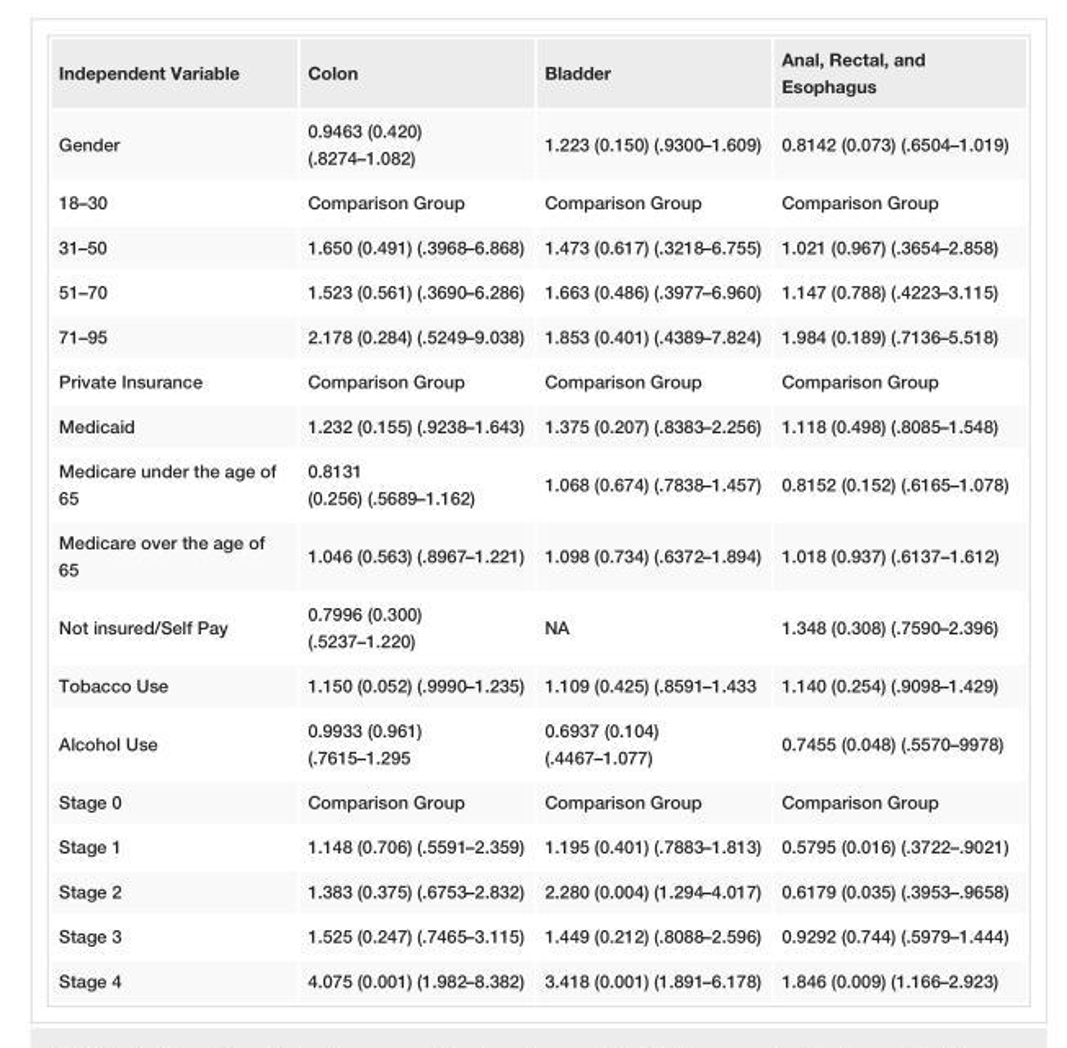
<table><tbody><tr><td>Independent Variable</td><td>Colon</td><td>Bladder</td><td>Anal, Rectal, and Esophagus</td></tr><tr><td>Gender</td><td>0.9463 (0.420) (.8274–1.082)</td><td>1.223 (0.150) (.9300–1.609)</td><td>0.8142 (0.073) (.6504–1.019)</td></tr><tr><td>18–30</td><td>Comparison Group</td><td>Comparison Group</td><td>Comparison Group</td></tr><tr><td>31–50</td><td>1.650 (0.491) (.3968–6.868)</td><td>1.473 (0.617) (.3218–6.755)</td><td>1.021 (0.967) (.3654–2.858)</td></tr><tr><td>51–70</td><td>1.523 (0.561) (.3690–6.286)</td><td>1.663 (0.486) (.3977–6.960)</td><td>1.147 (0.788) (.4223–3.115)</td></tr><tr><td>71–95</td><td>2.178 (0.284) (.5249–9.038)</td><td>1.853 (0.401) (.4389–7.824)</td><td>1.984 (0.189) (.7136–5.518)</td></tr><tr><td>Private Insurance</td><td>Comparison Group</td><td>Comparison Group</td><td>Comparison Group</td></tr><tr><td>Medicaid</td><td>1.232 (0.155) (.9238–1.643)</td><td>1.375 (0.207) (.8383–2.256)</td><td>1.118 (0.498) (.8085–1.548)</td></tr><tr><td>Medicare under the age of 65</td><td>0.8131 (0.256) (.5689–1.162)</td><td>1.068 (0.674) (.7838–1.457)</td><td>0.8152 (0.152) (.6165–1.078)</td></tr><tr><td>Medicare over the age of 65</td><td>1.046 (0.563) (.8967–1.221)</td><td>1.098 (0.734) (.6372–1.894)</td><td>1.018 (0.937) (.6137–1.612)</td></tr><tr><td>Not insured/Self Pay</td><td>0.7996 (0.300) (.5237–1.220)</td><td>NA</td><td>1.348 (0.308) (.7590–2.396)</td></tr><tr><td>Tobacco Use</td><td>1.150 (0.052) (.9990–1.235)</td><td>1.109 (0.425) (.8591–1.433</td><td>1.140 (0.254) (.9098–1.429)</td></tr><tr><td>Alcohol Use</td><td>0.9933 (0.961) (.7615–1.295</td><td>0.6937 (0.104) (.4467–1.077)</td><td>0.7455 (0.048) (.5570–9978)</td></tr><tr><td>Stage 0</td><td>Comparison Group</td><td>Comparison Group</td><td>Comparison Group</td></tr><tr><td>Stage 1</td><td>1.148 (0.706) (.5591–2.359)</td><td>1.195 (0.401) (.7883–1.813)</td><td>0.5795 (0.016) (.3722–.9021)</td></tr><tr><td>Stage 2</td><td>1.383 (0.375) (.6753–2.832)</td><td>2.280 (0.004) (1.294–4.017)</td><td>0.6179 (0.035) (.3953–.9658)</td></tr><tr><td>Stage 3</td><td>1.525 (0.247) (.7465–3.115)</td><td>1.449 (0.212) (.8088–2.596)</td><td>0.9292 (0.744) (.5979–1.444)</td></tr><tr><td>Stage 4</td><td>4.075 (0.001) (1.982–8.382)</td><td>3.418 (0.001) (1.891–6.178)</td><td>1.846 (0.009) (1.166–2.923)</td></tr></tbody></table>